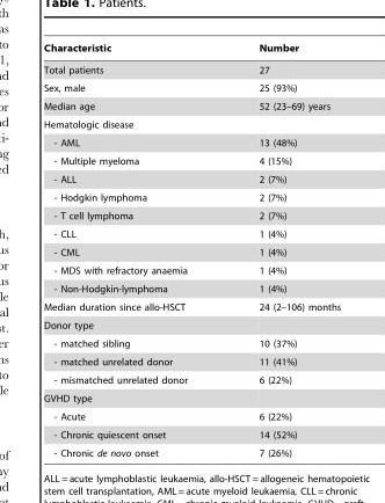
<table><thead><tr><td>Characteristic</td><td>Number</td></tr></thead><tbody><tr><td>Total patients</td><td>27</td></tr><tr><td>Sex, male</td><td>25 (93%)</td></tr><tr><td>Median age</td><td>52 (23–69) years</td></tr><tr><td colspan="2">Hematologic disease</td></tr><tr><td>- AML</td><td>13 (48%)</td></tr><tr><td>- Multiple myeloma</td><td>4 (15%)</td></tr><tr><td>- ALL</td><td>2 (7%)</td></tr><tr><td>- Hodgkin lymphoma</td><td>2 (7%)</td></tr><tr><td>- T cell lymphoma</td><td>2 (7%)</td></tr><tr><td>- CLL</td><td>1 (4%)</td></tr><tr><td>- CML</td><td>1 (4%)</td></tr><tr><td>- MDS with refractory anaemia</td><td>1 (4%)</td></tr><tr><td>- Non-Hodgkin-lymphoma</td><td>1 (4%)</td></tr><tr><td>Median duration since allo-HSCT</td><td>24 (2–106) months</td></tr><tr><td colspan="2">Donor type</td></tr><tr><td>- matched sibling</td><td>10 (37%)</td></tr><tr><td>- matched unrelated donor</td><td>11 (41%)</td></tr><tr><td>- mismatched unrelated donor</td><td>6 (22%)</td></tr><tr><td colspan="2">GVHD type</td></tr><tr><td>- Acute</td><td>6 (22%)</td></tr><tr><td>- Chronic quiescent onset</td><td>14 (52%)</td></tr><tr><td>- Chronic de novo onset</td><td>7 (26%)</td></tr></tbody></table>